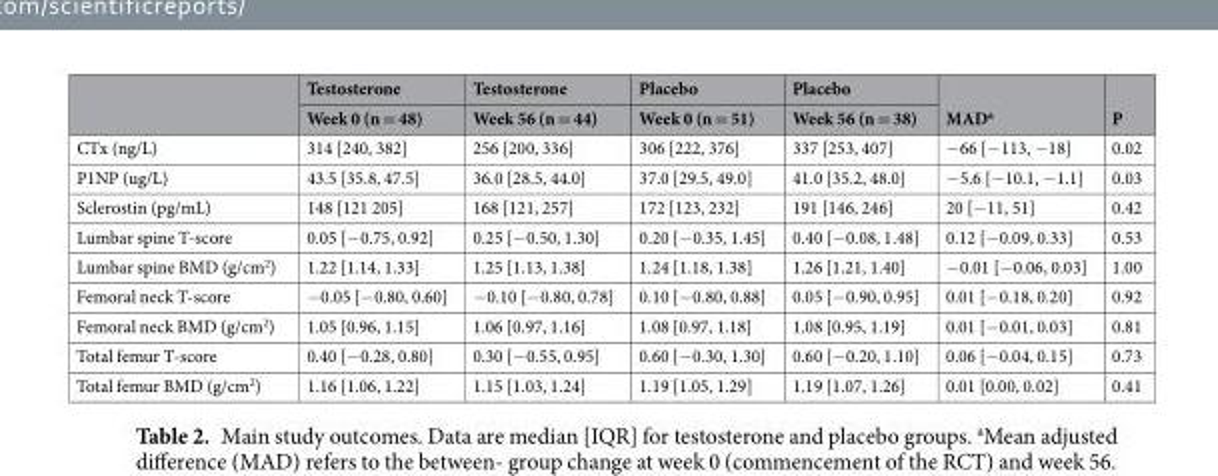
<table><thead><tr><td rowspan="2"></td><td rowspan="2">Testosterone Week 0 (n = 48)</td><td rowspan="2">Testosterone Week 56 (n = 44)</td><td rowspan="2">Placebo Week 0 (n = 51)</td><td rowspan="2">Placebo Week 56 (n = 38)</td><td rowspan="2">MAD<sup>a</sup></td><td rowspan="2">P</td></tr><tr></tr></thead><tbody><tr><td>CTx (ng/L)</td><td>314 [240, 382]</td><td>256 [200, 336]</td><td>306 [222, 376]</td><td>337 [253, 407]</td><td>−66 [−113, −18]</td><td>0.02</td></tr><tr><td>P1NP (ug/L)</td><td>43.5 [35.8, 47.5]</td><td>36.0 [28.5, 44.0]</td><td>37.0 [29.5, 49.0]</td><td>41.0 [35.2, 48.0]</td><td>−5.6 [−10.1, −1.1]</td><td>0.03</td></tr><tr><td>Sclerostin (pg/mL)</td><td>148 [121 205]</td><td>168 [121, 257]</td><td>172 [123, 232]</td><td>191 [146, 246]</td><td>20 [−11, 51]</td><td>0.42</td></tr><tr><td>Lumbar spine T-score</td><td>0.05 [−0.75, 0.92]</td><td>0.25 [−0.50, 1.30]</td><td>0.20 [−0.35, 1.45]</td><td>0.40 [−0.08, 1.48]</td><td>0.12 [−0.09, 0.33]</td><td>0.53</td></tr><tr><td>Lumbar spine BMD (g/cm<sup>2</sup>)</td><td>1.22 [1.14, 1.33]</td><td>1.25 [1.13, 1.38]</td><td>1.24 [1.18, 1.38]</td><td>1.26 [1.21, 1.40]</td><td>−0.01 [−0.06, 0.03]</td><td>1.00</td></tr><tr><td>Femoral neck T-score</td><td>−0.05 [−0.80, 0.60]</td><td>−0.10 [−0.80, 0.78]</td><td>0.10 [−0.80, 0.88]</td><td>0.05 [−0.90, 0.95]</td><td>0.01 [−0.18, 0.20]</td><td>0.92</td></tr><tr><td>Femoral neck BMD (g/cm<sup>2</sup>)</td><td>1.05 [0.96, 1.15]</td><td>1.06 [0.97, 1.16]</td><td>1.08 [0.97, 1.18]</td><td>1.08 [0.95, 1.19]</td><td>0.01 [−0.01, 0.03]</td><td>0.81</td></tr><tr><td>Total femur T-score</td><td>0.40 [−0.28, 0.80]</td><td>0.30 [−0.55, 0.95]</td><td>0.60 [−0.30, 1.30]</td><td>0.60 [−0.20, 1.10]</td><td>0.06 [−0.04, 0.15]</td><td>0.73</td></tr><tr><td>Total femur BMD (g/cm<sup>2</sup>)</td><td>1.16 [1.06, 1.22]</td><td>1.15 [1.03, 1.24]</td><td>1.19 [1.05, 1.29]</td><td>1.19 [1.07, 1.26]</td><td>0.01 [0.00, 0.02]</td><td>0.41</td></tr></tbody></table>